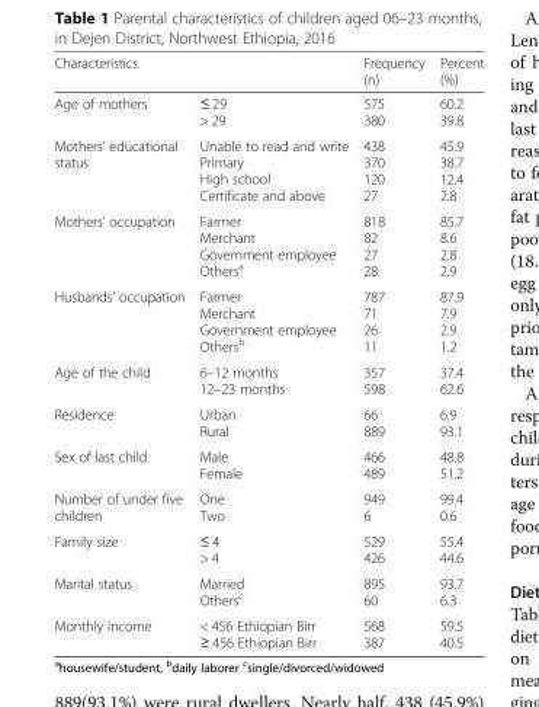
<table><thead><tr><td colspan="2">Characteristics</td><td rowspan="2">Frequency (n) 575 380</td><td rowspan="2">Percent (%) 60.2 39.8</td></tr><tr><td>Age of mothers</td><td>≤ 29 &gt; 29</td></tr></thead><tbody><tr><td>Mothers’ educational status</td><td>Unable to read and write Primary High school Certificate and above</td><td>438 370 120 27</td><td>45.9 38.7 12.4 2.8</td></tr><tr><td>Mothers’ occupation</td><td>Farmer Merchant Government employee Others<sup>a</sup></td><td>818 82 27 28</td><td>85.7 8.6 2.8 2.9</td></tr><tr><td>Husbands’ occupation</td><td>Farmer Merchant Government employee Others<sup>b</sup></td><td>787 71 26 11</td><td>87.9 7.9 2.9 1.2</td></tr><tr><td>Age of the child</td><td>6–12 months 12–23 months</td><td>357 598</td><td>37.4 62.6</td></tr><tr><td>Residence</td><td>Urban Rural</td><td>66 889</td><td>6.9 93.1</td></tr><tr><td>Sex of last child</td><td>Male Female</td><td>466 489</td><td>48.8 51.2</td></tr><tr><td>Number of under five children</td><td>One Two</td><td>949 6</td><td>99.4 0.6</td></tr><tr><td>Family size</td><td>≤ 4 &gt; 4</td><td>529 426</td><td>55.4 44.6</td></tr><tr><td>Marital status</td><td>Married Others<sup>c</sup></td><td>895 60</td><td>93.7 6.3</td></tr><tr><td>Monthly income</td><td>&lt; 456 Ethiopian Birr ≥ 456 Ethiopian Birr</td><td>568 387</td><td>59.5 40.5</td></tr></tbody></table>